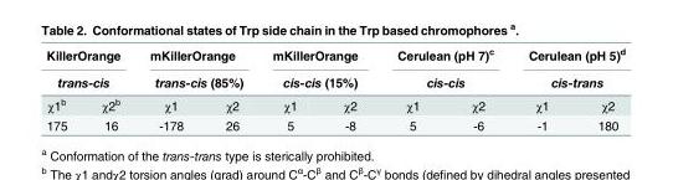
<table><thead><tr><td rowspan="2" colspan="2">KillerOrange trans-cis</td><td rowspan="2" colspan="2">mKillerOrange trans-cis (85%)</td><td rowspan="2" colspan="2">mKillerOrange cis-cis (15%)</td><td rowspan="2" colspan="2">Cerulean (pH 7)<sup>c</sup> cis-cis</td><td rowspan="2" colspan="2">Cerulean (pH 5)<sup>d</sup> cis-trans</td></tr><tr></tr><tr><td>χ1<sup>b</sup></td><td>χ2<sup>b</sup></td><td>χ1</td><td>χ2</td><td>χ1</td><td>χ2</td><td>χ1</td><td>χ2</td><td>χ1</td><td>χ2</td></tr></thead><tbody><tr><td>175</td><td>16</td><td>-178</td><td>26</td><td>5</td><td>-8</td><td>5</td><td>-6</td><td>-1</td><td>180</td></tr></tbody></table>